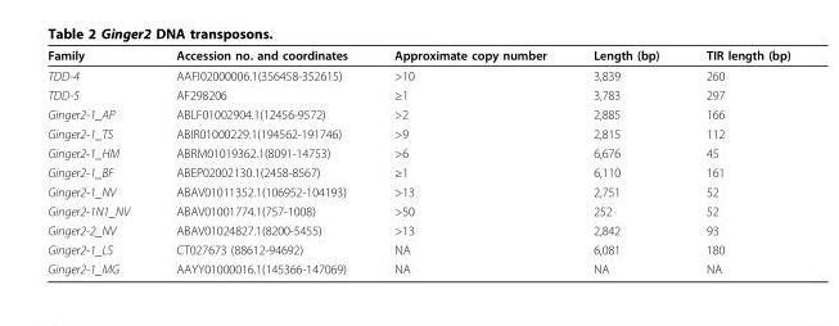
<table><thead><tr><td>Family</td><td>Accession no. and coordinates</td><td>Approximate copy number</td><td>Length (bp)</td><td>TIR length (bp)</td></tr></thead><tbody><tr><td>TDD-4</td><td>AAFI02000006.1(356458-352615)</td><td>&gt;10</td><td>3,839</td><td>260</td></tr><tr><td>TDD-5</td><td>AF298206</td><td>≥1</td><td>3,783</td><td>297</td></tr><tr><td>Ginger2-1_AP</td><td>ABLF01002904.1(12456-9572)</td><td>&gt;2</td><td>2,885</td><td>166</td></tr><tr><td>Ginger2-1_TS</td><td>ABIR01000229.1(194562-191746)</td><td>&gt;9</td><td>2,815</td><td>112</td></tr><tr><td>Ginger2-1_HM</td><td>ABRM01019362.1(8091-14753)</td><td>&gt;6</td><td>6,676</td><td>45</td></tr><tr><td>Ginger2-1_BF</td><td>ABEP02002130.1(2458-8567)</td><td>≥1</td><td>6,110</td><td>161</td></tr><tr><td>Ginger2-1_NV</td><td>ABAV01011352.1(106952-104193)</td><td>&gt;13</td><td>2,751</td><td>52</td></tr><tr><td>Ginger2-1N1_NV</td><td>ABAV01001774.1(757-1008)</td><td>&gt;50</td><td>252</td><td>52</td></tr><tr><td>Ginger2-2_NV</td><td>ABAV01024827.1(8200-5455)</td><td>&gt;13</td><td>2,842</td><td>93</td></tr><tr><td>Ginger2-1_LS</td><td>CT027673 (88612-94692)</td><td>NA</td><td>6,081</td><td>180</td></tr><tr><td>Ginger2-1_MG</td><td>AAYY01000016.1(145366-147069)</td><td>NA</td><td>NA</td><td>NA</td></tr></tbody></table>